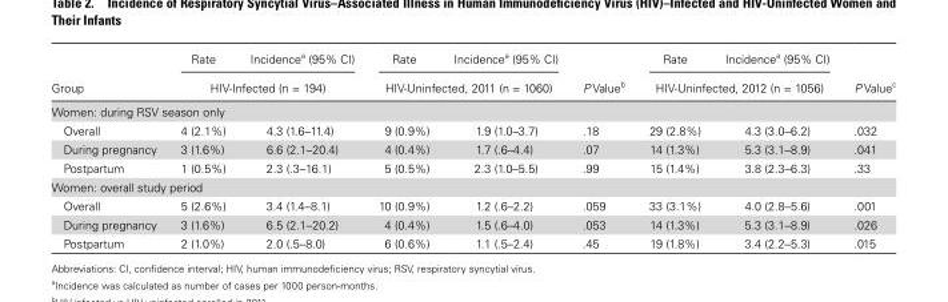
<table><thead><tr><td rowspan="2">Group</td><td>Rate</td><td>Incidence<sup>a</sup> (95% CI)</td><td>Rate</td><td>Incidence<sup>a</sup> (95% CI)</td><td rowspan="2">P Value<sup>b</sup></td><td>Rate</td><td>Incidence<sup>a</sup> (95% CI)</td><td rowspan="2">P Value<sup>c</sup></td></tr><tr><td colspan="2">HIV-Infected (n = 194)</td><td colspan="2">HIV-Uninfected, 2011 (n = 1060)</td><td colspan="2">HIV-Uninfected, 2012 (n = 1056)</td></tr></thead><tbody><tr><td colspan="9">Women: during RSV season only</td></tr><tr><td>Overall</td><td>4 (2.1%)</td><td>4.3 (1.6–11.4)</td><td>9 (0.9%)</td><td>1.9 (1.0–3.7)</td><td>.18</td><td>29 (2.8%)</td><td>4.3 (3.0–6.2)</td><td>.032</td></tr><tr><td>During pregnancy</td><td>3 (1.6%)</td><td>6.6 (2.1–20.4)</td><td>4 (0.4%)</td><td>1.7 (.6–4.4)</td><td>.07</td><td>14 (1.3%)</td><td>5.3 (3.1–8.9)</td><td>.041</td></tr><tr><td>Postpartum</td><td>1 (0.5%)</td><td>2.3 (.3–16.1)</td><td>5 (0.5%)</td><td>2.3 (1.0–5.5)</td><td>.99</td><td>15 (1.4%)</td><td>3.8 (2.3–6.3)</td><td>.33</td></tr><tr><td colspan="9">Women: overall study period</td></tr><tr><td>Overall</td><td>5 (2.6%)</td><td>3.4 (1.4–8.1)</td><td>10 (0.9%)</td><td>1.2 (.6–2.2)</td><td>.059</td><td>33 (3.1%)</td><td>4.0 (2.8–5.6)</td><td>.001</td></tr><tr><td>During pregnancy</td><td>3 (1.6%)</td><td>6.5 (2.1–20.2)</td><td>4 (0.4%)</td><td>1.5 (.6–4.0)</td><td>.053</td><td>14 (1.3%)</td><td>5.3 (3.1–8.9)</td><td>.026</td></tr><tr><td>Postpartum</td><td>2 (1.0%)</td><td>2.0 (.5–8.0)</td><td>6 (0.6%)</td><td>1.1 (.5–2.4)</td><td>.45</td><td>19 (1.8%)</td><td>3.4 (2.2–5.3)</td><td>.015</td></tr></tbody></table>